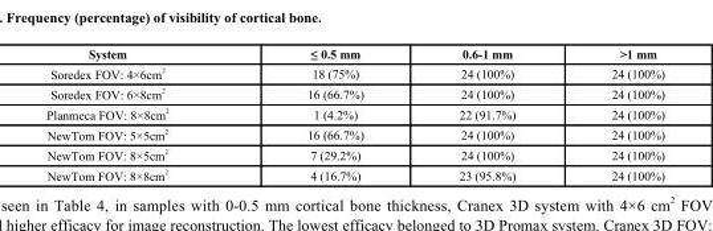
<table><thead><tr><td>System</td><td>≤ 0.5 mm</td><td>0.6-1 mm</td><td>&gt;1 mm</td></tr></thead><tbody><tr><td>Soredex FOV: 4×6cm <sup>2</sup></td><td>18 (75%)</td><td>24 (100%)</td><td>24 (100%)</td></tr><tr><td>Soredex FOV: 6×8cm <sup>2</sup></td><td>16 (66.7%)</td><td>24 (100%)</td><td>24 (100%)</td></tr><tr><td>Planmeca FOV: 8×8cm <sup>2</sup></td><td>1 (4.2%)</td><td>22 (91.7%)</td><td>24 (100%)</td></tr><tr><td>NewTom FOV: 5×5cm <sup>2</sup></td><td>16 (66.7%)</td><td>24 (100%)</td><td>24 (100%)</td></tr><tr><td>NewTom FOV: 8×5cm <sup>2</sup></td><td>7 (29.2%)</td><td>24 (100%)</td><td>24 (100%)</td></tr><tr><td>NewTom FOV: 8×8cm <sup>2</sup></td><td>4 (16.7%)</td><td>23 (95.8%)</td><td>24 (100%)</td></tr></tbody></table>